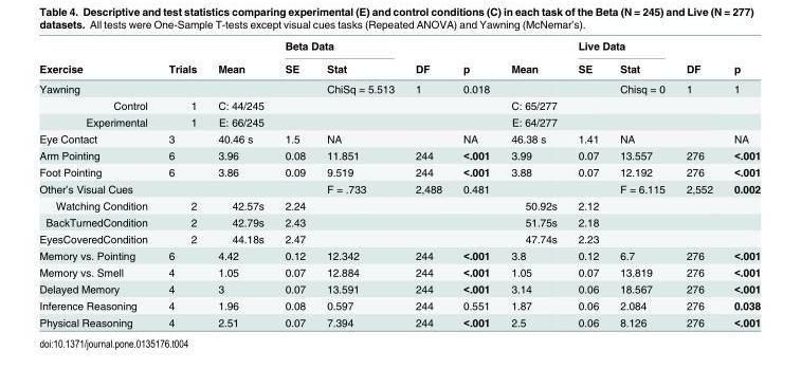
<table><thead><tr><td rowspan="2">Exercise</td><td rowspan="2">Trials</td><td rowspan="2">Mean</td><td colspan="2">Beta Data</td><td rowspan="2">DF</td><td rowspan="2">p</td><td rowspan="2">Mean</td><td colspan="2">Live Data</td><td rowspan="2">DF</td><td rowspan="2">p</td></tr><tr><td>SE</td><td>Stat</td><td>SE</td><td>Stat</td></tr></thead><tbody><tr><td>Yawning</td><td></td><td></td><td></td><td>ChiSq = 5.513</td><td>1</td><td>0.018</td><td></td><td></td><td>Chisq = 0</td><td>1</td><td>1</td></tr><tr><td>Control</td><td>1</td><td>C: 44/245</td><td></td><td></td><td></td><td></td><td>C: 65/277</td><td></td><td></td><td></td><td></td></tr><tr><td>Experimental</td><td>1</td><td>E: 66/245</td><td></td><td></td><td></td><td></td><td>E: 64/277</td><td></td><td></td><td></td><td></td></tr><tr><td>Eye Contact</td><td>3</td><td>40.46 s</td><td>1.5</td><td>NA</td><td></td><td>NA</td><td>46.38 s</td><td>1.41</td><td>NA</td><td></td><td>NA</td></tr><tr><td>Arm Pointing</td><td>6</td><td>3.96</td><td>0.08</td><td>11.851</td><td>244</td><td>&lt;.001</td><td>3.99</td><td>0.07</td><td>13.557</td><td>276</td><td>&lt;.001</td></tr><tr><td>Foot Pointing</td><td>6</td><td>3.86</td><td>0.09</td><td>9.519</td><td>244</td><td>&lt;.001</td><td>3.88</td><td>0.07</td><td>12.192</td><td>276</td><td>&lt;.001</td></tr><tr><td>Other’s Visual Cues</td><td></td><td></td><td></td><td>F = .733</td><td>2,488</td><td>0.481</td><td></td><td></td><td>F = 6.115</td><td>2,552</td><td>0.002</td></tr><tr><td>Watching Condition</td><td>2</td><td>42.57s</td><td>2.24</td><td></td><td></td><td></td><td>50.92s</td><td>2.12</td><td></td><td></td><td></td></tr><tr><td>BackTurnedCondition</td><td>2</td><td>42.79s</td><td>2.43</td><td></td><td></td><td></td><td>51.75s</td><td>2.18</td><td></td><td></td><td></td></tr><tr><td>EyesCoveredCondition</td><td>2</td><td>44.18s</td><td>2.47</td><td></td><td></td><td></td><td>47.74s</td><td>2.23</td><td></td><td></td><td></td></tr><tr><td>Memory vs. Pointing</td><td>6</td><td>4.42</td><td>0.12</td><td>12.342</td><td>244</td><td>&lt;.001</td><td>3.8</td><td>0.12</td><td>6.7</td><td>276</td><td>&lt;.001</td></tr><tr><td>Memory vs. Smell</td><td>4</td><td>1.05</td><td>0.07</td><td>12.884</td><td>244</td><td>&lt;.001</td><td>1.05</td><td>0.07</td><td>13.819</td><td>276</td><td>&lt;.001</td></tr><tr><td>Delayed Memory</td><td>4</td><td>3</td><td>0.07</td><td>13.591</td><td>244</td><td>&lt;.001</td><td>3.14</td><td>0.06</td><td>18.567</td><td>276</td><td>&lt;.001</td></tr><tr><td>Inference Reasoning</td><td>4</td><td>1.96</td><td>0.08</td><td>0.597</td><td>244</td><td>0.551</td><td>1.87</td><td>0.06</td><td>2.084</td><td>276</td><td>0.038</td></tr><tr><td>Physical Reasoning</td><td>4</td><td>2.51</td><td>0.07</td><td>7.394</td><td>244</td><td>&lt;.001</td><td>2.5</td><td>0.06</td><td>8.126</td><td>276</td><td>&lt;.001</td></tr></tbody></table>